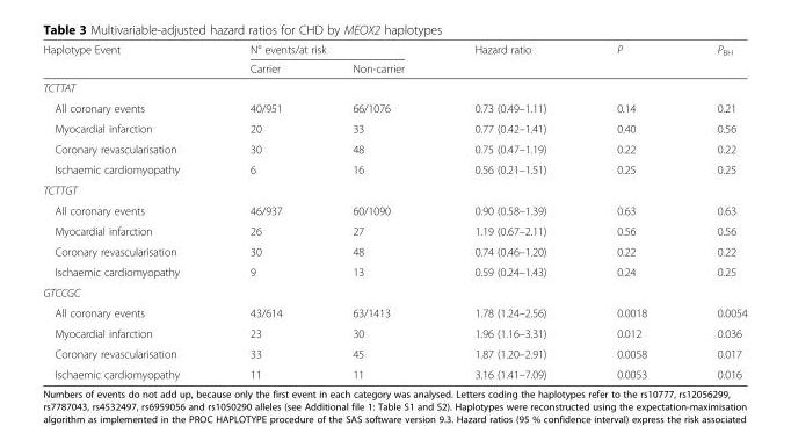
<table><thead><tr><td rowspan="2">Haplotype Event</td><td colspan="2">N° events/at risk</td><td rowspan="2">Hazard ratio</td><td rowspan="2">P</td><td rowspan="2">P<sub>BH</sub></td></tr><tr><td>Carrier</td><td>Non-carrier</td></tr></thead><tbody><tr><td colspan="6">TCTTAT</td></tr><tr><td>All coronary events</td><td>40/951</td><td>66/1076</td><td>0.73 (0.49–1.11)</td><td>0.14</td><td>0.21</td></tr><tr><td>Myocardial infarction</td><td>20</td><td>33</td><td>0.77 (0.42–1.41)</td><td>0.40</td><td>0.56</td></tr><tr><td>Coronary revascularisation</td><td>30</td><td>48</td><td>0.75 (0.47–1.19)</td><td>0.22</td><td>0.22</td></tr><tr><td>Ischaemic cardiomyopathy</td><td>6</td><td>16</td><td>0.56 (0.21–1.51)</td><td>0.25</td><td>0.25</td></tr><tr><td colspan="6">TCTTGT</td></tr><tr><td>All coronary events</td><td>46/937</td><td>60/1090</td><td>0.90 (0.58–1.39)</td><td>0.63</td><td>0.63</td></tr><tr><td>Myocardial infarction</td><td>26</td><td>27</td><td>1.19 (0.67–2.11)</td><td>0.56</td><td>0.56</td></tr><tr><td>Coronary revascularisation</td><td>30</td><td>48</td><td>0.74 (0.46–1.20)</td><td>0.22</td><td>0.22</td></tr><tr><td>Ischaemic cardiomyopathy</td><td>9</td><td>13</td><td>0.59 (0.24–1.43)</td><td>0.24</td><td>0.25</td></tr><tr><td colspan="6">GTCCGC</td></tr><tr><td>All coronary events</td><td>43/614</td><td>63/1413</td><td>1.78 (1.24–2.56)</td><td>0.0018</td><td>0.0054</td></tr><tr><td>Myocardial infarction</td><td>23</td><td>30</td><td>1.96 (1.16–3.31)</td><td>0.012</td><td>0.036</td></tr><tr><td>Coronary revascularisation</td><td>33</td><td>45</td><td>1.87 (1.20–2.91)</td><td>0.0058</td><td>0.017</td></tr><tr><td>Ischaemic cardiomyopathy</td><td>11</td><td>11</td><td>3.16 (1.41–7.09)</td><td>0.0053</td><td>0.016</td></tr></tbody></table>